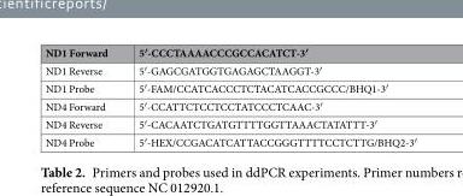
<table><thead><tr><td>ND1 Forward</td><td>5′-CCCTAAAACCCGCCACATCT-3′</td></tr></thead><tbody><tr><td>ND1 Reverse</td><td>5′-GAGCGATGGTGAGAGCTAAGGT-3′</td></tr><tr><td>ND1 Probe</td><td>5′-FAM/CCATCACCCTCTACATCACCGCCC/BHQ1-3′</td></tr><tr><td>ND4 Forward</td><td>5′-CCATTCTCCTCCTATCCCTCAAC-3′</td></tr><tr><td>ND4 Reverse</td><td>5′-CACAATCTGATGTTTTGGTTAAACTATATTT-3′</td></tr><tr><td>ND4 Probe</td><td>5′-HEX/CCGACATCATTACCGGGTTTTCCTCTTG/BHQ2-3′</td></tr></tbody></table>